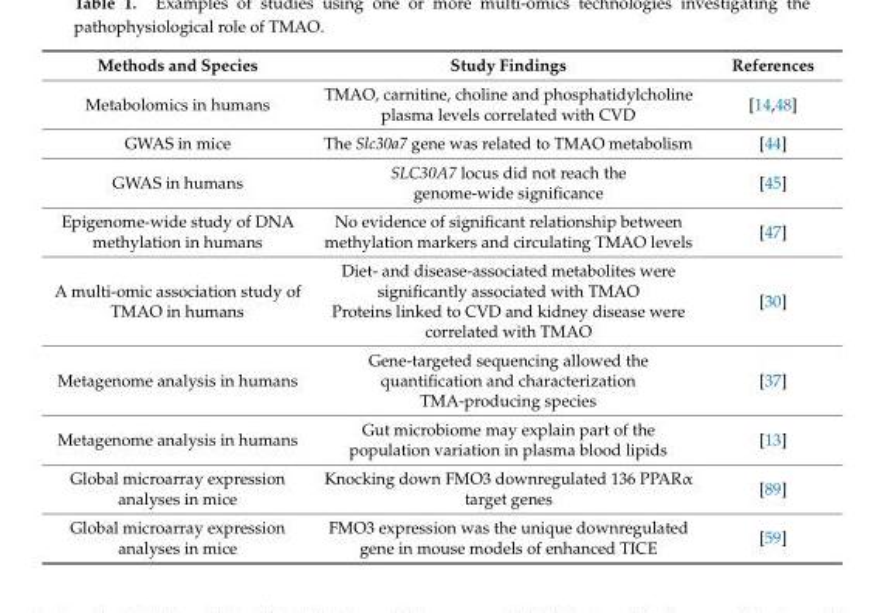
<table><thead><tr><td>Methods and Species</td><td>Study Findings</td><td>References</td></tr></thead><tbody><tr><td>Metabolomics in humans</td><td>TMAO, carnitine, choline and phosphatidylcholine plasma levels correlated with CVD</td><td>[14,48]</td></tr><tr><td>GWAS in mice</td><td>The Slc30a7 gene was related to TMAO metabolism</td><td>[44]</td></tr><tr><td>GWAS in humans</td><td>SLC30A7 locus did not reach the genome-wide significance</td><td>[45]</td></tr><tr><td>Epigenome-wide study of DNA methylation in humans</td><td>No evidence of significant relationship between methylation markers and circulating TMAO levels</td><td>[47]</td></tr><tr><td>A multi-omic association study of TMAO in humans</td><td>Diet- and disease-associated metabolites were significantly associated with TMAO Proteins linked to CVD and kidney disease were correlated with TMAO</td><td>[30]</td></tr><tr><td>Metagenome analysis in humans</td><td>Gene-targeted sequencing allowed the quantification and characterization TMA-producing species</td><td>[37]</td></tr><tr><td>Metagenome analysis in humans</td><td>Gut microbiome may explain part of the population variation in plasma blood lipids</td><td>[13]</td></tr><tr><td>Global microarray expression analyses in mice</td><td>Knocking down FMO3 downregulated 136 PPARα target genes</td><td>[89]</td></tr><tr><td>Global microarray expression analyses in mice</td><td>FMO3 expression was the unique downregulated gene in mouse models of enhanced TICE</td><td>[59]</td></tr></tbody></table>